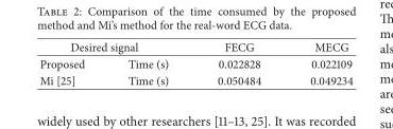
<table><thead><tr><td colspan="2">Desired signal</td><td rowspan="2">FECG 0.022828</td><td rowspan="2">MECG 0.022109</td></tr><tr><td>Proposed</td><td>Time (s)</td></tr></thead><tbody><tr><td>Mi [25]</td><td>Time (s)</td><td>0.050484</td><td>0.049234</td></tr></tbody></table>